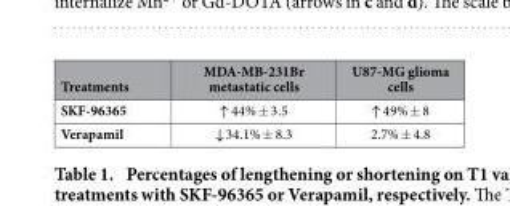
<table><thead><tr><td>Treatments</td><td>MDA-MB-231Br metastatic cells</td><td>U87-MG glioma cells</td></tr></thead><tbody><tr><td>SKF-96365</td><td>↑ 44% ± 3.5</td><td>↑ 49% ± 8</td></tr><tr><td>Verapamil</td><td>↓ 34.1% ± 8.3</td><td>2.7% ± 4.8</td></tr></tbody></table>